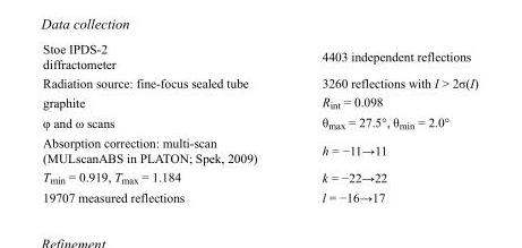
<table><tbody><tr><td>Stoe IPDS-2 diffractometer</td><td>4403 independent reflections</td></tr><tr><td>Radiation source: fine-focus sealed tube</td><td>3260 reflections with I &gt; 2σ(I)</td></tr><tr><td>graphite</td><td>R<sub>int</sub> = 0.098</td></tr><tr><td>φ and ω scans</td><td>θ<sub>max</sub> = 27.5°, θ<sub>min</sub> = 2.0°</td></tr><tr><td>Absorption correction: multi-scan (MULscanABS in PLATON; Spek, 2009)</td><td>h = −11→11</td></tr><tr><td>T<sub>min</sub> = 0.919, T<sub>max</sub> = 1.184</td><td>k = −22→22</td></tr><tr><td>19707 measured reflections</td><td>l = −16→17</td></tr></tbody></table>